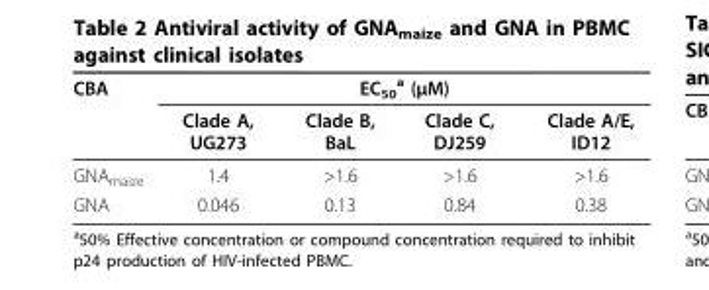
<table><thead><tr><td rowspan="2">CBA</td><td colspan="4">EC<sub>50</sub> <sup>a</sup> (μM)</td></tr><tr><td>Clade A, UG273</td><td>Clade B, BaL</td><td>Clade C, DJ259</td><td>Clade A/E, ID12</td></tr></thead><tbody><tr><td>GNA<sub>maize</sub></td><td>1.4</td><td>&gt;1.6</td><td>&gt;1.6</td><td>&gt;1.6</td></tr><tr><td>GNA</td><td>0.046</td><td>0.13</td><td>0.84</td><td>0.38</td></tr></tbody></table>